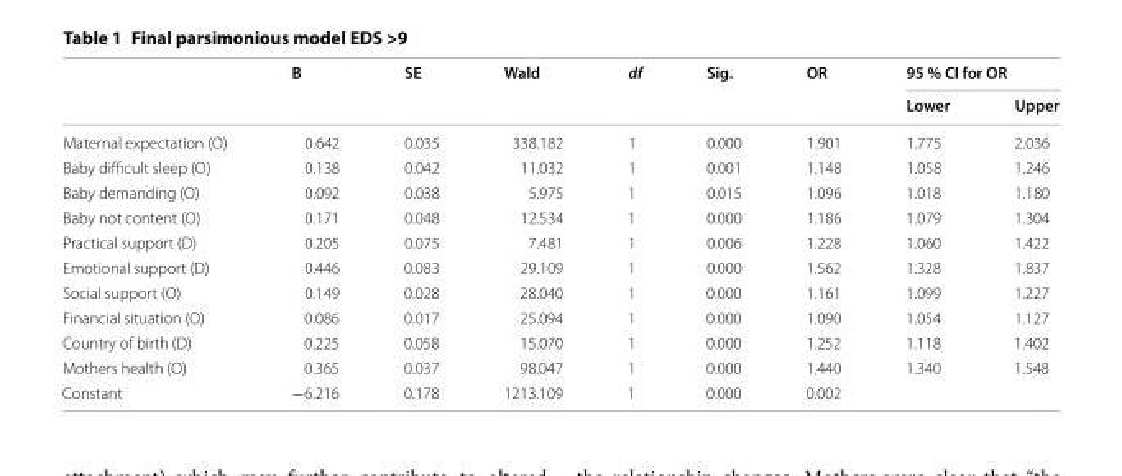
<table><thead><tr><td rowspan="2"></td><td rowspan="2">B</td><td rowspan="2">SE</td><td rowspan="2">Wald</td><td rowspan="2">df</td><td rowspan="2">Sig.</td><td rowspan="2">OR</td><td colspan="2">95 % CI for OR</td></tr><tr><td>Lower</td><td>Upper</td></tr></thead><tbody><tr><td>Maternal expectation (O)</td><td>0.642</td><td>0.035</td><td>338.182</td><td>1</td><td>0.000</td><td>1.901</td><td>1.775</td><td>2.036</td></tr><tr><td>Baby difficult sleep (O)</td><td>0.138</td><td>0.042</td><td>11.032</td><td>1</td><td>0.001</td><td>1.148</td><td>1.058</td><td>1.246</td></tr><tr><td>Baby demanding (O)</td><td>0.092</td><td>0.038</td><td>5.975</td><td>1</td><td>0.015</td><td>1.096</td><td>1.018</td><td>1.180</td></tr><tr><td>Baby not content (O)</td><td>0.171</td><td>0.048</td><td>12.534</td><td>1</td><td>0.000</td><td>1.186</td><td>1.079</td><td>1.304</td></tr><tr><td>Practical support (D)</td><td>0.205</td><td>0.075</td><td>7.481</td><td>1</td><td>0.006</td><td>1.228</td><td>1.060</td><td>1.422</td></tr><tr><td>Emotional support (D)</td><td>0.446</td><td>0.083</td><td>29.109</td><td>1</td><td>0.000</td><td>1.562</td><td>1.328</td><td>1.837</td></tr><tr><td>Social support (O)</td><td>0.149</td><td>0.028</td><td>28.040</td><td>1</td><td>0.000</td><td>1.161</td><td>1.099</td><td>1.227</td></tr><tr><td>Financial situation (O)</td><td>0.086</td><td>0.017</td><td>25.094</td><td>1</td><td>0.000</td><td>1.090</td><td>1.054</td><td>1.127</td></tr><tr><td>Country of birth (D)</td><td>0.225</td><td>0.058</td><td>15.070</td><td>1</td><td>0.000</td><td>1.252</td><td>1.118</td><td>1.402</td></tr><tr><td>Mothers health (O)</td><td>0.365</td><td>0.037</td><td>98.047</td><td>1</td><td>0.000</td><td>1.440</td><td>1.340</td><td>1.548</td></tr><tr><td>Constant</td><td>−6.216</td><td>0.178</td><td>1213.109</td><td>1</td><td>0.000</td><td>0.002</td><td></td><td></td></tr></tbody></table>